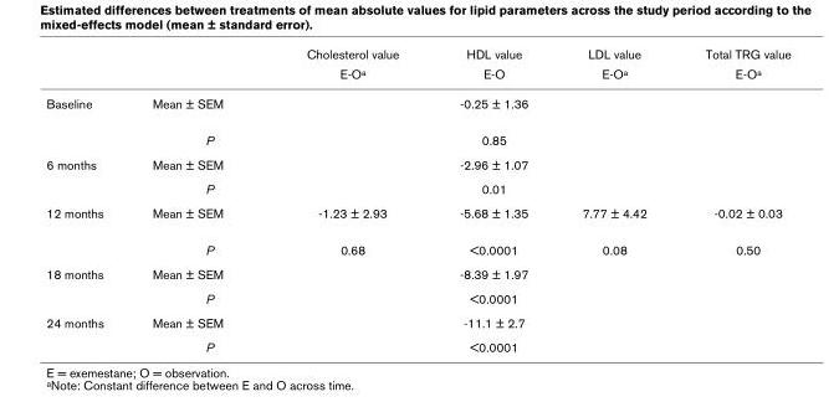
<table><thead><tr><td rowspan="2"></td><td rowspan="2"></td><td rowspan="2">Cholesterol value E-O<sup>a</sup></td><td rowspan="2">HDL value E-O</td><td rowspan="2">LDL value E-O<sup>a</sup></td><td rowspan="2">Total TRG value E-O<sup>a</sup></td></tr><tr></tr></thead><tbody><tr><td rowspan="2">Baseline</td><td>Mean ± SEM</td><td></td><td>-0.25 ± 1.36</td><td></td><td></td></tr><tr><td>P</td><td></td><td>0.85</td><td></td><td></td></tr><tr><td rowspan="2">6 months</td><td>Mean ± SEM</td><td></td><td>-2.96 ± 1.07</td><td></td><td></td></tr><tr><td>P</td><td></td><td>0.01</td><td></td><td></td></tr><tr><td rowspan="2">12 months</td><td>Mean ± SEM</td><td>-1.23 ± 2.93</td><td>-5.68 ± 1.35</td><td>7.77 ± 4.42</td><td>-0.02 ± 0.03</td></tr><tr><td>P</td><td>0.68</td><td>&lt;0.0001</td><td>0.08</td><td>0.50</td></tr><tr><td rowspan="2">18 months</td><td>Mean ± SEM</td><td></td><td>-8.39 ± 1.97</td><td></td><td></td></tr><tr><td>P</td><td></td><td>&lt;0.0001</td><td></td><td></td></tr><tr><td rowspan="2">24 months</td><td>Mean ± SEM</td><td></td><td>-11.1 ± 2.7</td><td></td><td></td></tr><tr><td>P</td><td></td><td>&lt;0.0001</td><td></td><td></td></tr></tbody></table>